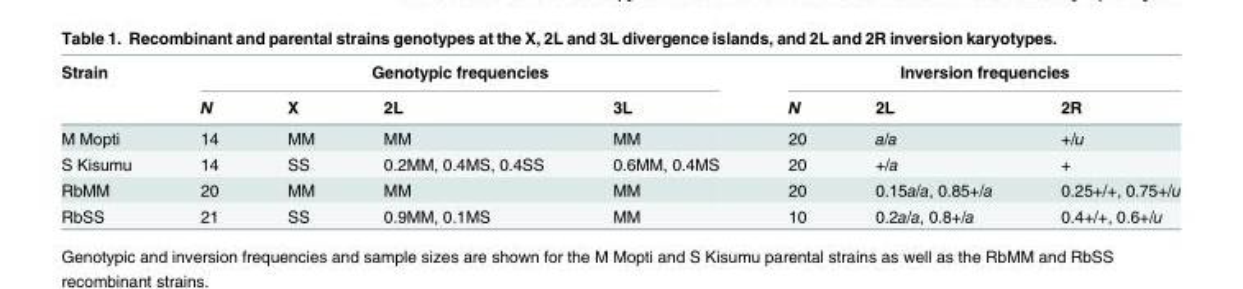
<table><thead><tr><td rowspan="2">Strain</td><td colspan="4">Genotypic frequencies</td><td colspan="3">Inversion frequencies</td></tr><tr><td>N</td><td>X</td><td>2L</td><td>3L</td><td>N</td><td>2L</td><td>2R</td></tr></thead><tbody><tr><td>M Mopti</td><td>14</td><td>MM</td><td>MM</td><td>MM</td><td>20</td><td>a/a</td><td>+/u</td></tr><tr><td>S Kisumu</td><td>14</td><td>SS</td><td>0.2MM, 0.4MS, 0.4SS</td><td>0.6MM, 0.4MS</td><td>20</td><td>+/a</td><td>+</td></tr><tr><td>RbMM</td><td>20</td><td>MM</td><td>MM</td><td>MM</td><td>20</td><td>0.15a/a, 0.85+/a</td><td>0.25+/+, 0.75+/u</td></tr><tr><td>RbSS</td><td>21</td><td>SS</td><td>0.9MM, 0.1MS</td><td>MM</td><td>10</td><td>0.2a/a, 0.8+/a</td><td>0.4+/+, 0.6+/u</td></tr></tbody></table>